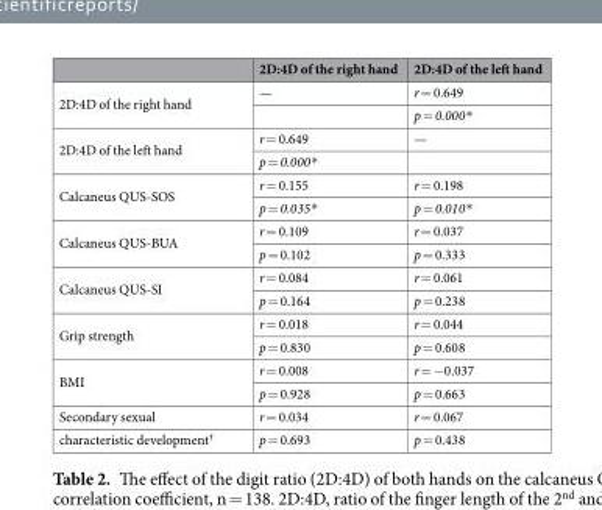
<table><thead><tr><td></td><td>2D:4D of the right hand</td><td>2D:4D of the left hand</td></tr></thead><tbody><tr><td rowspan="2">2D:4D of the right hand</td><td>—</td><td>r = 0.649</td></tr><tr><td></td><td>p = 0.000*</td></tr><tr><td rowspan="2">2D:4D of the left hand</td><td>r = 0.649</td><td>—</td></tr><tr><td>p = 0.000*</td><td></td></tr><tr><td rowspan="2">Calcaneus QUS-SOS</td><td>r = 0.155</td><td>r = 0.198</td></tr><tr><td>p = 0.035*</td><td>p = 0.010*</td></tr><tr><td rowspan="2">Calcaneus QUS-BUA</td><td>r = 0.109</td><td>r = 0.037</td></tr><tr><td>p = 0.102</td><td>p = 0.333</td></tr><tr><td rowspan="2">Calcaneus QUS-SI</td><td>r = 0.084</td><td>r = 0.061</td></tr><tr><td>p = 0.164</td><td>p = 0.238</td></tr><tr><td rowspan="2">Grip strength</td><td>r = 0.018</td><td>r = 0.044</td></tr><tr><td>p = 0.830</td><td>p = 0.608</td></tr><tr><td rowspan="2">BMI</td><td>r = 0.008</td><td>r = −0.037</td></tr><tr><td>p = 0.928</td><td>p = 0.663</td></tr><tr><td>Secondary sexual</td><td>r = 0.034</td><td>r = 0.067</td></tr><tr><td>characteristic development<sup>†</sup></td><td>p = 0.693</td><td>p = 0.438</td></tr></tbody></table>